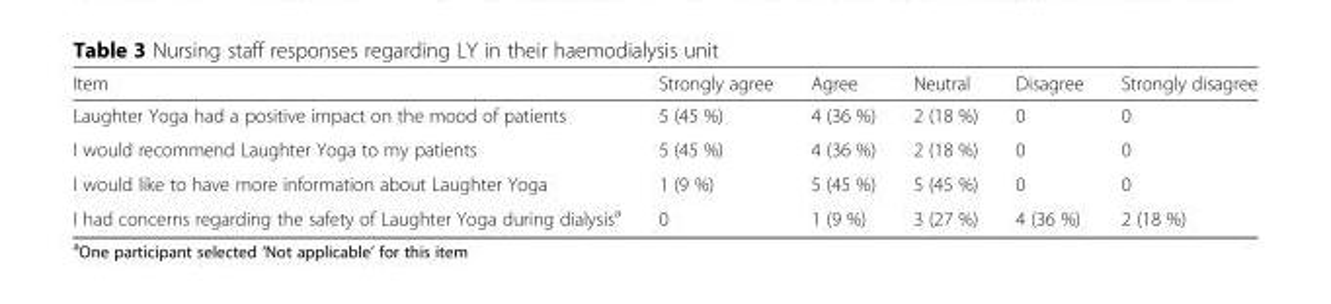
<table><thead><tr><td>Item</td><td>Strongly agree</td><td>Agree</td><td>Neutral</td><td>Disagree</td><td>Strongly disagree</td></tr></thead><tbody><tr><td>Laughter Yoga had a positive impact on the mood of patients</td><td>5 (45 %)</td><td>4 (36 %)</td><td>2 (18 %)</td><td>0</td><td>0</td></tr><tr><td>I would recommend Laughter Yoga to my patients</td><td>5 (45 %)</td><td>4 (36 %)</td><td>2 (18 %)</td><td>0</td><td>0</td></tr><tr><td>I would like to have more information about Laughter Yoga</td><td>1 (9 %)</td><td>5 (45 %)</td><td>5 (45 %)</td><td>0</td><td>0</td></tr><tr><td>I had concerns regarding the safety of Laughter Yoga during dialysis<sup>a</sup></td><td>0</td><td>1 (9 %)</td><td>3 (27 %)</td><td>4 (36 %)</td><td>2 (18 %)</td></tr></tbody></table>